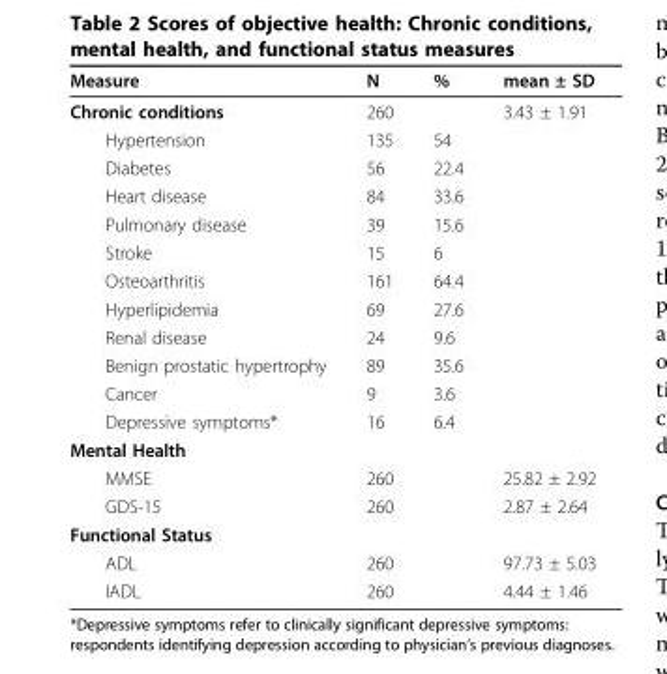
<table><thead><tr><td>Measure</td><td>N</td><td>%</td><td>mean ± SD</td></tr></thead><tbody><tr><td>Chronic conditions</td><td>260</td><td></td><td>3.43 ± 1.91</td></tr><tr><td>Hypertension</td><td>135</td><td>54</td><td></td></tr><tr><td>Diabetes</td><td>56</td><td>22.4</td><td></td></tr><tr><td>Heart disease</td><td>84</td><td>33.6</td><td></td></tr><tr><td>Pulmonary disease</td><td>39</td><td>15.6</td><td></td></tr><tr><td>Stroke</td><td>15</td><td>6</td><td></td></tr><tr><td>Osteoarthritis</td><td>161</td><td>64.4</td><td></td></tr><tr><td>Hyperlipidemia</td><td>69</td><td>27.6</td><td></td></tr><tr><td>Renal disease</td><td>24</td><td>9.6</td><td></td></tr><tr><td>Benign prostatic hypertrophy</td><td>89</td><td>35.6</td><td></td></tr><tr><td>Cancer</td><td>9</td><td>3.6</td><td></td></tr><tr><td>Depressive symptoms*</td><td>16</td><td>6.4</td><td></td></tr><tr><td colspan="4">Mental Health</td></tr><tr><td>MMSE</td><td>260</td><td></td><td>25.82 ± 2.92</td></tr><tr><td>GDS-15</td><td>260</td><td></td><td>2.87 ± 2.64</td></tr><tr><td colspan="4">Functional Status</td></tr><tr><td>ADL</td><td>260</td><td></td><td>97.73 ± 5.03</td></tr><tr><td>IADL</td><td>260</td><td></td><td>4.44 ± 1.46</td></tr></tbody></table>